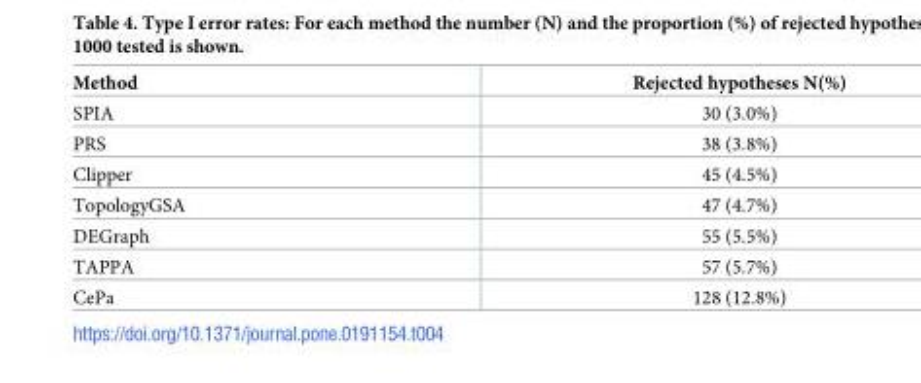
<table><thead><tr><td>Method</td><td>Rejected hypotheses N(%)</td></tr></thead><tbody><tr><td>SPIA</td><td>30 (3.0%)</td></tr><tr><td>PRS</td><td>38 (3.8%)</td></tr><tr><td>Clipper</td><td>45 (4.5%)</td></tr><tr><td>TopologyGSA</td><td>47 (4.7%)</td></tr><tr><td>DEGraph</td><td>55 (5.5%)</td></tr><tr><td>TAPPA</td><td>57 (5.7%)</td></tr><tr><td>CePa</td><td>128 (12.8%)</td></tr></tbody></table>